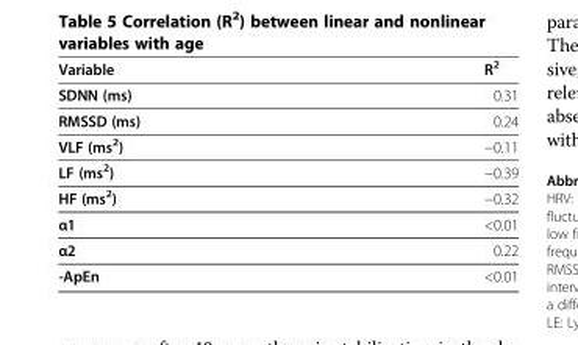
<table><thead><tr><td>Variable</td><td>R<sup>2</sup></td></tr></thead><tbody><tr><td>SDNN (ms)</td><td>0.31</td></tr><tr><td>RMSSD (ms)</td><td>0.24</td></tr><tr><td>VLF (ms<sup>2</sup>)</td><td>−0.11</td></tr><tr><td>LF (ms<sup>2</sup>)</td><td>−0.39</td></tr><tr><td>HF (ms<sup>2</sup>)</td><td>−0.32</td></tr><tr><td>α1</td><td>&lt;0.01</td></tr><tr><td>α2</td><td>0.22</td></tr><tr><td>-ApEn</td><td>&lt;0.01</td></tr></tbody></table>